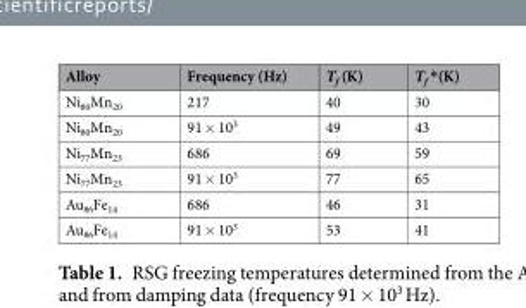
<table><thead><tr><td>Alloy</td><td>Frequency (Hz)</td><td>T<sub>f</sub> (K)</td><td>T<sub>f</sub> *(K)</td></tr></thead><tbody><tr><td>Ni<sub>80</sub>Mn<sub>20</sub></td><td>217</td><td>40</td><td>30</td></tr><tr><td>Ni<sub>80</sub>Mn<sub>20</sub></td><td>91 × 10<sup>3</sup></td><td>49</td><td>43</td></tr><tr><td>Ni<sub>77</sub>Mn<sub>23</sub></td><td>686</td><td>69</td><td>59</td></tr><tr><td>Ni<sub>77</sub>Mn<sub>23</sub></td><td>91 × 10<sup>3</sup></td><td>77</td><td>65</td></tr><tr><td>Au<sub>86</sub>Fe<sub>14</sub></td><td>686</td><td>46</td><td>31</td></tr><tr><td>Au<sub>86</sub>Fe<sub>14</sub></td><td>91 × 10<sup>3</sup></td><td>53</td><td>41</td></tr></tbody></table>